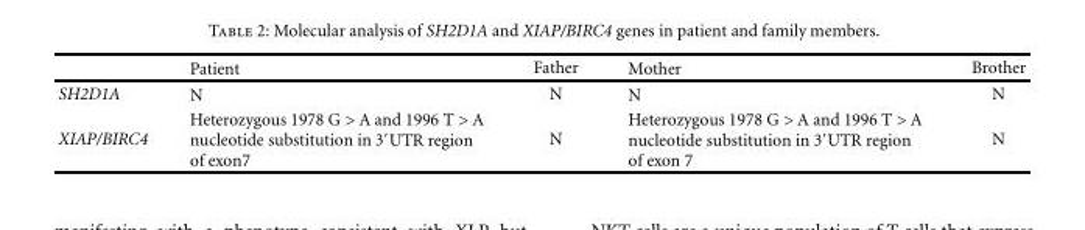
<table><thead><tr><td></td><td>Patient</td><td>Father</td><td>Mother</td><td>Brother</td></tr></thead><tbody><tr><td>SH2D1A</td><td>N</td><td>N</td><td>N</td><td>N</td></tr><tr><td>XIAP/BIRC4</td><td>Heterozygous 1978 G &gt; A and 1996 T &gt; A nucleotide substitution in 3′UTR region of exon7</td><td>N</td><td>Heterozygous 1978 G &gt; A and 1996 T &gt; A nucleotide substitution in 3′UTR region of exon 7</td><td>N</td></tr></tbody></table>